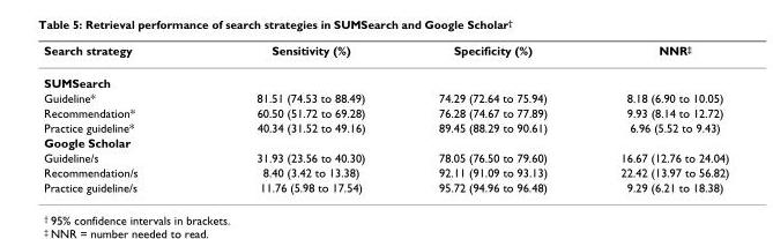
<table><thead><tr><td>Search strategy</td><td>Sensitivity (%)</td><td>Specificity (%)</td><td>NNR<sup>‡</sup></td></tr></thead><tbody><tr><td colspan="4">SUMSearch</td></tr><tr><td>Guideline*</td><td>81.51 (74.53 to 88.49)</td><td>74.29 (72.64 to 75.94)</td><td>8.18 (6.90 to 10.05)</td></tr><tr><td>Recommendation*</td><td>60.50 (51.72 to 69.28)</td><td>76.28 (74.67 to 77.89)</td><td>9.93 (8.14 to 12.72)</td></tr><tr><td>Practice guideline*</td><td>40.34 (31.52 to 49.16)</td><td>89.45 (88.29 to 90.61)</td><td>6.96 (5.52 to 9.43)</td></tr><tr><td colspan="4">Google Scholar</td></tr><tr><td>Guideline/s</td><td>31.93 (23.56 to 40.30)</td><td>78.05 (76.50 to 79.60)</td><td>16.67 (12.76 to 24.04)</td></tr><tr><td>Recommendation/s</td><td>8.40 (3.42 to 13.38)</td><td>92.11 (91.09 to 93.13)</td><td>22.42 (13.97 to 56.82)</td></tr><tr><td>Practice guideline/s</td><td>11.76 (5.98 to 17.54)</td><td>95.72 (94.96 to 96.48)</td><td>9.29 (6.21 to 18.38)</td></tr></tbody></table>